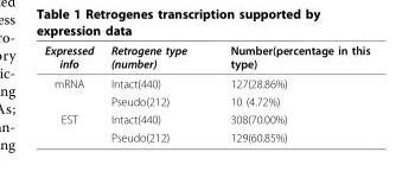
<table><thead><tr><td>Expressed info</td><td>Retrogene type (number)</td><td>Number(percentage in this type)</td></tr></thead><tbody><tr><td rowspan="2">mRNA</td><td>Intact(440)</td><td>127(28.86%)</td></tr><tr><td>Pseudo(212)</td><td>10 (4.72%)</td></tr><tr><td rowspan="2">EST</td><td>Intact(440)</td><td>308(70.00%)</td></tr><tr><td>Pseudo(212)</td><td>129(60.85%)</td></tr></tbody></table>